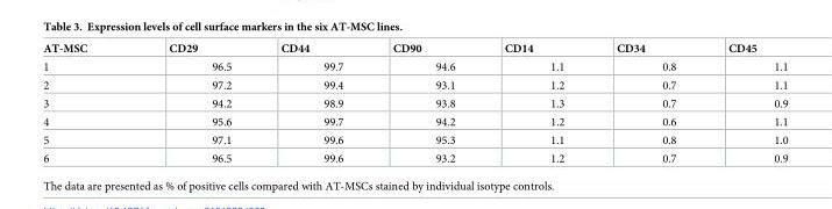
<table><thead><tr><td>AT-MSC</td><td>CD29</td><td>CD44</td><td>CD90</td><td>CD14</td><td>CD34</td><td>CD45</td></tr></thead><tbody><tr><td>1</td><td>96.5</td><td>99.7</td><td>94.6</td><td>1.1</td><td>0.8</td><td>1.1</td></tr><tr><td>2</td><td>97.2</td><td>99.4</td><td>93.1</td><td>1.2</td><td>0.7</td><td>1.1</td></tr><tr><td>3</td><td>94.2</td><td>98.9</td><td>93.8</td><td>1.3</td><td>0.7</td><td>0.9</td></tr><tr><td>4</td><td>95.6</td><td>99.7</td><td>94.2</td><td>1.2</td><td>0.6</td><td>1.1</td></tr><tr><td>5</td><td>97.1</td><td>99.6</td><td>95.3</td><td>1.1</td><td>0.8</td><td>1.0</td></tr><tr><td>6</td><td>96.5</td><td>99.6</td><td>93.2</td><td>1.2</td><td>0.7</td><td>0.9</td></tr></tbody></table>